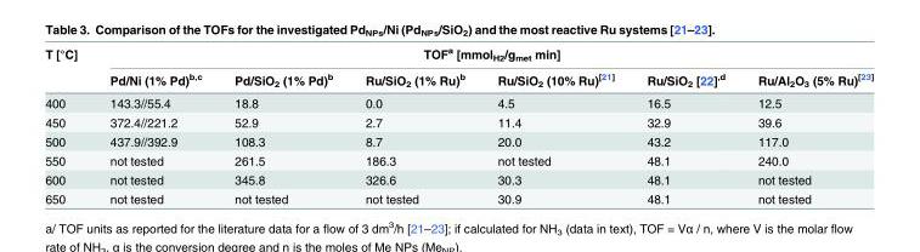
<table><thead><tr><td rowspan="2">T [°C]</td><td colspan="6">TOF<sup>a</sup> [mmol<sub>H2</sub>/g<sub>met</sub> min]</td></tr><tr><td>Pd/Ni (1% Pd)<sup>b,c</sup></td><td>Pd/SiO<sub>2</sub> (1% Pd)<sup>b</sup></td><td>Ru/SiO<sub>2</sub> (1% Ru)<sup>b</sup></td><td>Ru/SiO<sub>2</sub> (10% Ru)<sup>[21]</sup></td><td>Ru/SiO<sub>2</sub> [22]<sup>,d</sup></td><td>Ru/Al<sub>2</sub>O<sub>3</sub> (5% Ru)<sup>[23]</sup></td></tr></thead><tbody><tr><td>400</td><td>143.3//55.4</td><td>18.8</td><td>0.0</td><td>4.5</td><td>16.5</td><td>12.5</td></tr><tr><td>450</td><td>372.4//221.2</td><td>52.9</td><td>2.7</td><td>11.4</td><td>32.9</td><td>39.6</td></tr><tr><td>500</td><td>437.9//392.9</td><td>108.3</td><td>8.7</td><td>20.0</td><td>43.2</td><td>117.0</td></tr><tr><td>550</td><td>not tested</td><td>261.5</td><td>186.3</td><td>not tested</td><td>48.1</td><td>240.0</td></tr><tr><td>600</td><td>not tested</td><td>345.8</td><td>326.6</td><td>30.3</td><td>48.1</td><td>not tested</td></tr><tr><td>650</td><td>not tested</td><td>not tested</td><td>not tested</td><td>30.9</td><td>48.1</td><td>not tested</td></tr></tbody></table>